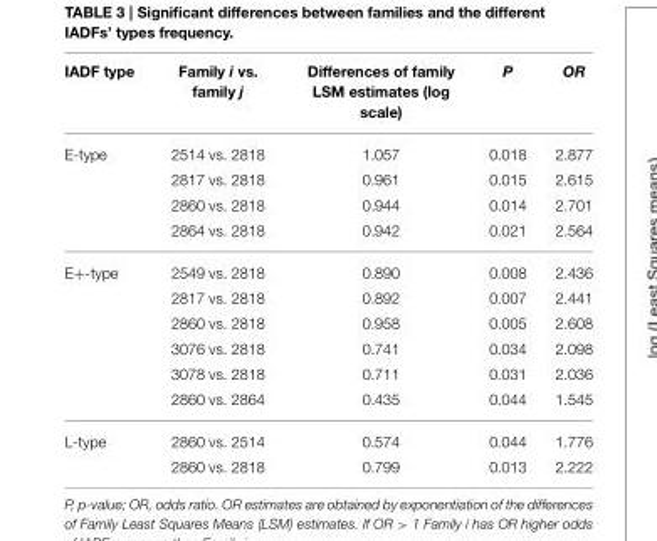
<table><thead><tr><td>IADF type</td><td>Family i vs. family j</td><td>Differences of family LSM estimates (log scale)</td><td>P</td><td>OR</td></tr></thead><tbody><tr><td rowspan="4">E-type</td><td>2514 vs. 2818</td><td>1.057</td><td>0.018</td><td>2.877</td></tr><tr><td>2817 vs. 2818</td><td>0.961</td><td>0.015</td><td>2.615</td></tr><tr><td>2860 vs. 2818</td><td>0.944</td><td>0.014</td><td>2.701</td></tr><tr><td>2864 vs. 2818</td><td>0.942</td><td>0.021</td><td>2.564</td></tr><tr><td rowspan="6">E+-type</td><td>2549 vs. 2818</td><td>0.890</td><td>0.008</td><td>2.436</td></tr><tr><td>2817 vs. 2818</td><td>0.892</td><td>0.007</td><td>2.441</td></tr><tr><td>2860 vs. 2818</td><td>0.958</td><td>0.005</td><td>2.608</td></tr><tr><td>3076 vs. 2818</td><td>0.741</td><td>0.034</td><td>2.098</td></tr><tr><td>3078 vs. 2818</td><td>0.711</td><td>0.031</td><td>2.036</td></tr><tr><td>2860 vs. 2864</td><td>0.435</td><td>0.044</td><td>1.545</td></tr><tr><td rowspan="2">L-type</td><td>2860 vs. 2514</td><td>0.574</td><td>0.044</td><td>1.776</td></tr><tr><td>2860 vs. 2818</td><td>0.799</td><td>0.013</td><td>2.222</td></tr></tbody></table>